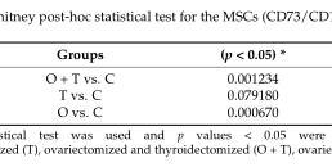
<table><thead><tr><td>Groups</td><td>(p &lt; 0.05) *</td></tr></thead><tbody><tr><td>O + T vs. C</td><td>0.001234</td></tr><tr><td>T vs. C</td><td>0.079180</td></tr><tr><td>O vs. C</td><td>0.000670</td></tr></tbody></table>